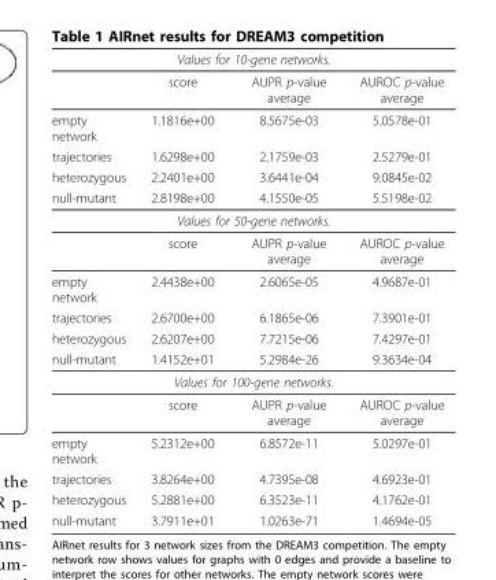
<table><thead><tr><td colspan="4">Values for 10-gene networks.</td></tr><tr><td></td><td>score</td><td>AUPR p-value average</td><td>AUROC p-value average</td></tr></thead><tbody><tr><td>empty network</td><td>1.1816e+00</td><td>8.5675e-03</td><td>5.0578e-01</td></tr><tr><td>trajectories</td><td>1.6298e+00</td><td>2.1759e-03</td><td>2.5279e-01</td></tr><tr><td>heterozygous</td><td>2.2401e+00</td><td>3.6441e-04</td><td>9.0845e-02</td></tr><tr><td>null-mutant</td><td>2.8198e+00</td><td>4.1550e-05</td><td>5.5198e-02</td></tr><tr><td colspan="4">Values for 50-gene networks.</td></tr><tr><td></td><td>score</td><td>AUPR p-value average</td><td>AUROC p-value average</td></tr><tr><td>empty network</td><td>2.4438e+00</td><td>2.6065e-05</td><td>4.9687e-01</td></tr><tr><td>trajectories</td><td>2.6700e+00</td><td>6.1865e-06</td><td>7.3901e-01</td></tr><tr><td>heterozygous</td><td>2.6207e+00</td><td>7.7215e-06</td><td>7.4297e-01</td></tr><tr><td>null-mutant</td><td>1.4152e+01</td><td>5.2984e-26</td><td>9.3634e-04</td></tr><tr><td colspan="4">Values for 100-gene networks.</td></tr><tr><td></td><td>score</td><td>AUPR p-value average</td><td>AUROC p-value average</td></tr><tr><td>empty network</td><td>5.2312e+00</td><td>6.8572e-11</td><td>5.0297e-01</td></tr><tr><td>trajectories</td><td>3.8264e+00</td><td>4.7395e-08</td><td>4.6923e-01</td></tr><tr><td>heterozygous</td><td>5.2881e+00</td><td>6.3523e-11</td><td>4.1762e-01</td></tr><tr><td>null-mutant</td><td>3.7911e+01</td><td>1.0263e-71</td><td>1.4694e-05</td></tr></tbody></table>